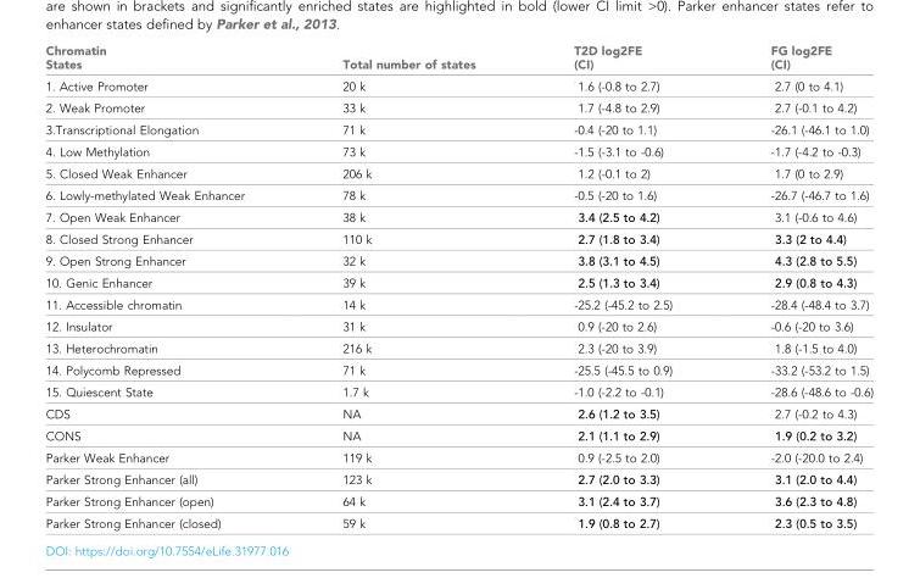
<table><thead><tr><td>Chromatin States</td><td>Total number of states</td><td>T2D log2FE (CI)</td><td>FG log2FE (CI)</td></tr></thead><tbody><tr><td>1. Active Promoter</td><td>20 k</td><td>1.6 (-0.8 to 2.7)</td><td>2.7 (0 to 4.1)</td></tr><tr><td>2. Weak Promoter</td><td>33 k</td><td>1.7 (-4.8 to 2.9)</td><td>2.7 (-0.1 to 4.2)</td></tr><tr><td>3.Transcriptional Elongation</td><td>71 k</td><td>-0.4 (-20 to 1.1)</td><td>-26.1 (-46.1 to 1.0)</td></tr><tr><td>4. Low Methylation</td><td>73 k</td><td>-1.5 (-3.1 to -0.6)</td><td>-1.7 (-4.2 to -0.3)</td></tr><tr><td>5. Closed Weak Enhancer</td><td>206 k</td><td>1.2 (-0.1 to 2)</td><td>1.7 (0 to 2.9)</td></tr><tr><td>6. Lowly-methylated Weak Enhancer</td><td>78 k</td><td>-0.5 (-20 to 1.6)</td><td>-26.7 (-46.7 to 1.6)</td></tr><tr><td>7. Open Weak Enhancer</td><td>38 k</td><td>3.4 (2.5 to 4.2)</td><td>3.1 (-0.6 to 4.6)</td></tr><tr><td>8. Closed Strong Enhancer</td><td>110 k</td><td>2.7 (1.8 to 3.4)</td><td>3.3 (2 to 4.4)</td></tr><tr><td>9. Open Strong Enhancer</td><td>32 k</td><td>3.8 (3.1 to 4.5)</td><td>4.3 (2.8 to 5.5)</td></tr><tr><td>10. Genic Enhancer</td><td>39 k</td><td>2.5 (1.3 to 3.4)</td><td>2.9 (0.8 to 4.3)</td></tr><tr><td>11. Accessible chromatin</td><td>14 k</td><td>-25.2 (-45.2 to 2.5)</td><td>-28.4 (-48.4 to 3.7)</td></tr><tr><td>12. Insulator</td><td>31 k</td><td>0.9 (-20 to 2.6)</td><td>-0.6 (-20 to 3.6)</td></tr><tr><td>13. Heterochromatin</td><td>216 k</td><td>2.3 (-20 to 3.9)</td><td>1.8 (-1.5 to 4.0)</td></tr><tr><td>14. Polycomb Repressed</td><td>71 k</td><td>-25.5 (-45.5 to 0.9)</td><td>-33.2 (-53.2 to 1.5)</td></tr><tr><td>15. Quiescent State</td><td>1.7 k</td><td>-1.0 (-2.2 to -0.1)</td><td>-28.6 (-48.6 to -0.6)</td></tr><tr><td>CDS</td><td>NA</td><td>2.6 (1.2 to 3.5)</td><td>2.7 (-0.2 to 4.3)</td></tr><tr><td>CONS</td><td>NA</td><td>2.1 (1.1 to 2.9)</td><td>1.9 (0.2 to 3.2)</td></tr><tr><td>Parker Weak Enhancer</td><td>119 k</td><td>0.9 (-2.5 to 2.0)</td><td>-2.0 (-20.0 to 2.4)</td></tr><tr><td>Parker Strong Enhancer (all)</td><td>123 k</td><td>2.7 (2.0 to 3.3)</td><td>3.1 (2.0 to 4.4)</td></tr><tr><td>Parker Strong Enhancer (open)</td><td>64 k</td><td>3.1 (2.4 to 3.7)</td><td>3.6 (2.3 to 4.8)</td></tr><tr><td>Parker Strong Enhancer (closed)</td><td>59 k</td><td>1.9 (0.8 to 2.7)</td><td>2.3 (0.5 to 3.5)</td></tr></tbody></table>